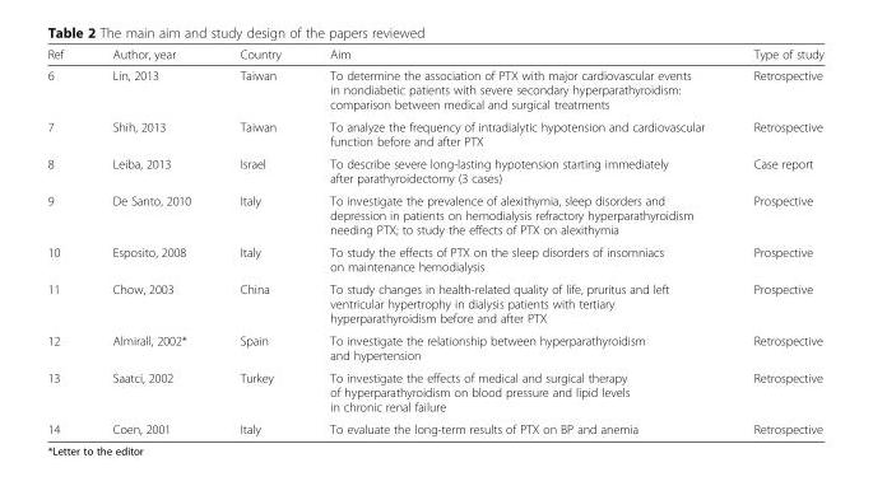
<table><thead><tr><td>Ref</td><td>Author, year</td><td>Country</td><td>Aim</td><td>Type of study</td></tr></thead><tbody><tr><td>6</td><td>Lin, 2013</td><td>Taiwan</td><td>To determine the association of PTX with major cardiovascular events in nondiabetic patients with severe secondary hyperparathyroidism: comparison between medical and surgical treatments</td><td>Retrospective</td></tr><tr><td>7</td><td>Shih, 2013</td><td>Taiwan</td><td>To analyze the frequency of intradialytic hypotension and cardiovascular function before and after PTX</td><td>Retrospective</td></tr><tr><td>8</td><td>Leiba, 2013</td><td>Israel</td><td>To describe severe long-lasting hypotension starting immediately after parathyroidectomy (3 cases)</td><td>Case report</td></tr><tr><td>9</td><td>De Santo, 2010</td><td>Italy</td><td>To investigate the prevalence of alexithymia, sleep disorders and depression in patients on hemodialysis refractory hyperparathyroidism needing PTX; to study the effects of PTX on alexithymia</td><td>Prospective</td></tr><tr><td>10</td><td>Esposito, 2008</td><td>Italy</td><td>To study the effects of PTX on the sleep disorders of insomniacs on maintenance hemodialysis</td><td>Prospective</td></tr><tr><td>11</td><td>Chow, 2003</td><td>China</td><td>To study changes in health-related quality of life, pruritus and left ventricular hypertrophy in dialysis patients with tertiary hyperparathyroidism before and after PTX</td><td>Prospective</td></tr><tr><td>12</td><td>Almirall, 2002*</td><td>Spain</td><td>To investigate the relationship between hyperparathyroidism and hypertension</td><td>Retrospective</td></tr><tr><td>13</td><td>Saatci, 2002</td><td>Turkey</td><td>To investigate the effects of medical and surgical therapy of hyperparathyroidism on blood pressure and lipid levels in chronic renal failure</td><td>Retrospective</td></tr><tr><td>14</td><td>Coen, 2001</td><td>Italy</td><td>To evaluate the long-term results of PTX on BP and anemia</td><td>Retrospective</td></tr></tbody></table>